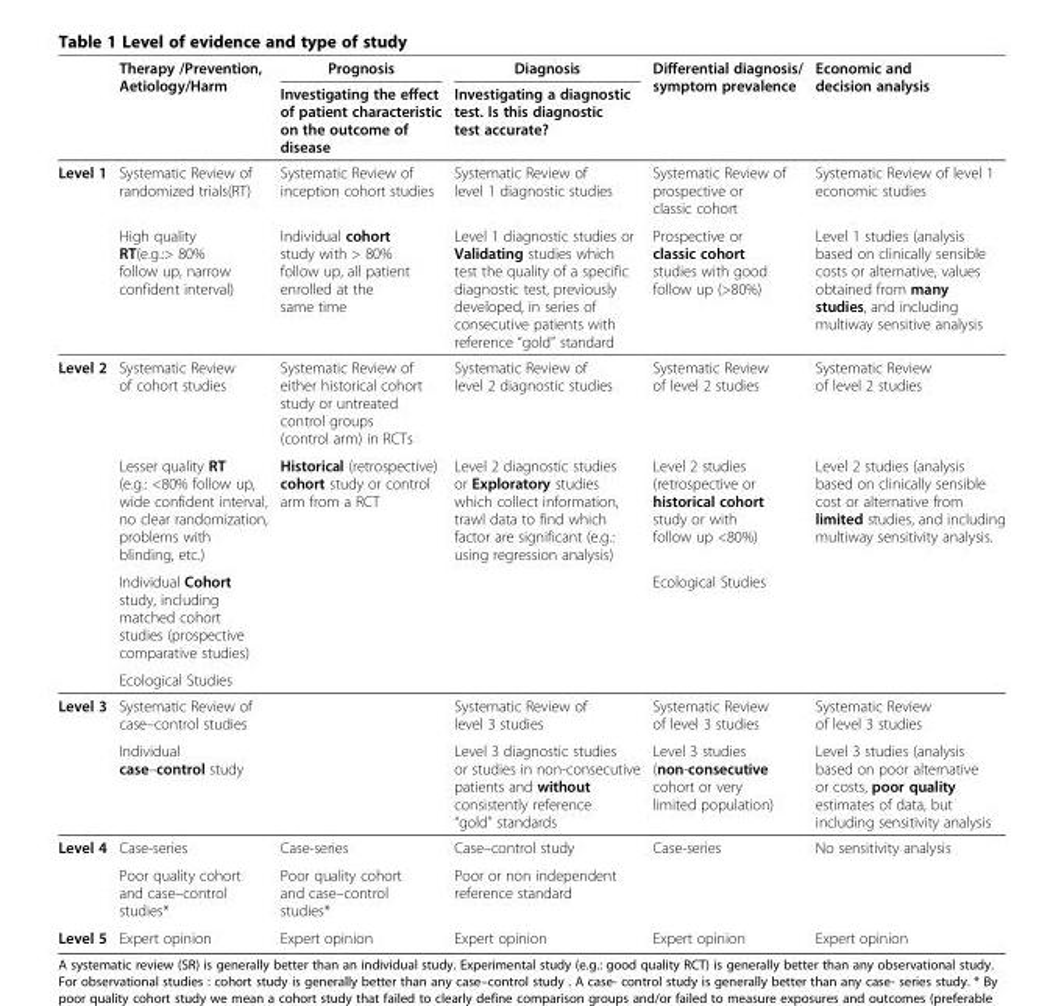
<table><thead><tr><td rowspan="2"></td><td rowspan="2">Therapy /Prevention, Aetiology/Harm</td><td rowspan="2">Prognosis Investigating the effect of patient characteristic on the outcome of disease</td><td rowspan="2">Diagnosis Investigating a diagnostic test. Is this diagnostic test accurate?</td><td rowspan="2">Differential diagnosis/ symptom prevalence</td><td rowspan="2">Economic and decision analysis</td></tr><tr></tr></thead><tbody><tr><td rowspan="2">Level 1</td><td>Systematic Review of randomized trials(RT)</td><td>Systematic Review of inception cohort studies</td><td>Systematic Review of level 1 diagnostic studies</td><td>Systematic Review of prospective or classic cohort</td><td>Systematic Review of level 1 economic studies</td></tr><tr><td>High quality RT(e.g.:&gt; 80% follow up, narrow confident interval)</td><td>Individual cohort study with &gt; 80% follow up, all patient enrolled at the same time</td><td>Level 1 diagnostic studies or Validating studies which test the quality of a specific diagnostic test, previously developed, in series of consecutive patients with reference “gold” standard</td><td>Prospective or classic cohort studies with good follow up (&gt;80%)</td><td>Level 1 studies (analysis based on clinically sensible costs or alternative, values obtained from many studies, and including multiway sensitive analysis</td></tr><tr><td rowspan="4">Level 2</td><td>Systematic Review of cohort studies</td><td>Systematic Review of either historical cohort study or untreated control groups (control arm) in RCTs</td><td>Systematic Review of level 2 diagnostic studies</td><td>Systematic Review of level 2 studies</td><td>Systematic Review of level 2 studies</td></tr><tr><td>Lesser quality RT (e.g.: &lt;80% follow up, wide confident interval, no clear randomization, problems with blinding, etc.)</td><td>Historical (retrospective) cohort study or control arm from a RCT</td><td>Level 2 diagnostic studies or Exploratory studies which collect information, trawl data to find which factor are significant (e.g.: using regression analysis)</td><td>Level 2 studies (retrospective or historical cohort study or with follow up &lt;80%)</td><td>Level 2 studies (analysis based on clinically sensible cost or alternative from limited studies, and including multiway sensitivity analysis.</td></tr><tr><td>Individual Cohort study, including matched cohort studies (prospective comparative studies)</td><td></td><td></td><td>Ecological Studies</td><td></td></tr><tr><td>Ecological Studies</td><td></td><td></td><td></td><td></td></tr><tr><td rowspan="2">Level 3</td><td>Systematic Review of case–control studies</td><td></td><td>Systematic Review of level 3 studies</td><td>Systematic Review of level 3 studies</td><td>Systematic Review of level 3 studies</td></tr><tr><td>Individual case–control study</td><td></td><td>Level 3 diagnostic studies or studies in non-consecutive patients and without consistently reference “gold” standards</td><td>Level 3 studies (non-consecutive cohort or very limited population)</td><td>Level 3 studies (analysis based on poor alternative or costs, poor quality estimates of data, but including sensitivity analysis</td></tr><tr><td rowspan="2">Level 4</td><td>Case-series</td><td>Case-series</td><td>Case–control study</td><td>Case-series</td><td>No sensitivity analysis</td></tr><tr><td>Poor quality cohort and case–control studies*</td><td>Poor quality cohort and case–control studies*</td><td>Poor or non independent reference standard</td><td></td><td></td></tr><tr><td>Level 5</td><td>Expert opinion</td><td>Expert opinion</td><td>Expert opinion</td><td>Expert opinion</td><td>Expert opinion</td></tr></tbody></table>